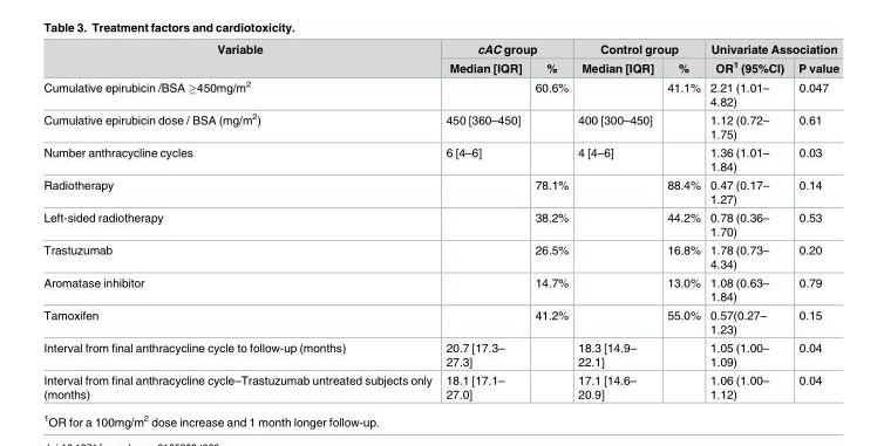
<table><thead><tr><td rowspan="2">Variable</td><td colspan="2">cAC group</td><td colspan="2">Control group</td><td colspan="2">Univariate Association</td></tr><tr><td>Median [IQR]</td><td>%</td><td>Median [IQR]</td><td>%</td><td>OR<sup>1</sup> (95%CI)</td><td>P value</td></tr></thead><tbody><tr><td>Cumulative epirubicin /BSA ≥450mg/m<sup>2</sup></td><td></td><td>60.6%</td><td></td><td>41.1%</td><td>2.21 (1.01– 4.82)</td><td>0.047</td></tr><tr><td>Cumulative epirubicin dose / BSA (mg/m<sup>2</sup>)</td><td>450 [360–450]</td><td></td><td>400 [300–450]</td><td></td><td>1.12 (0.72– 1.75)</td><td>0.61</td></tr><tr><td>Number anthracycline cycles</td><td>6 [4–6]</td><td></td><td>4 [4–6]</td><td></td><td>1.36 (1.01– 1.84)</td><td>0.03</td></tr><tr><td>Radiotherapy</td><td></td><td>78.1%</td><td></td><td>88.4%</td><td>0.47 (0.17– 1.27)</td><td>0.14</td></tr><tr><td>Left-sided radiotherapy</td><td></td><td>38.2%</td><td></td><td>44.2%</td><td>0.78 (0.36– 1.70)</td><td>0.53</td></tr><tr><td>Trastuzumab</td><td></td><td>26.5%</td><td></td><td>16.8%</td><td>1.78 (0.73– 4.34)</td><td>0.20</td></tr><tr><td>Aromatase inhibitor</td><td></td><td>14.7%</td><td></td><td>13.0%</td><td>1.08 (0.63– 1.84)</td><td>0.79</td></tr><tr><td>Tamoxifen</td><td></td><td>41.2%</td><td></td><td>55.0%</td><td>0.57(0.27– 1.23)</td><td>0.15</td></tr><tr><td>Interval from final anthracycline cycle to follow-up (months)</td><td>20.7 [17.3– 27.3]</td><td></td><td>18.3 [14.9– 22.1]</td><td></td><td>1.05 (1.00– 1.09)</td><td>0.04</td></tr><tr><td>Interval from final anthracycline cycle–Trastuzumab untreated subjects only (months)</td><td>18.1 [17.1– 27.0]</td><td></td><td>17.1 [14.6– 20.9]</td><td></td><td>1.06 (1.00– 1.12)</td><td>0.04</td></tr></tbody></table>